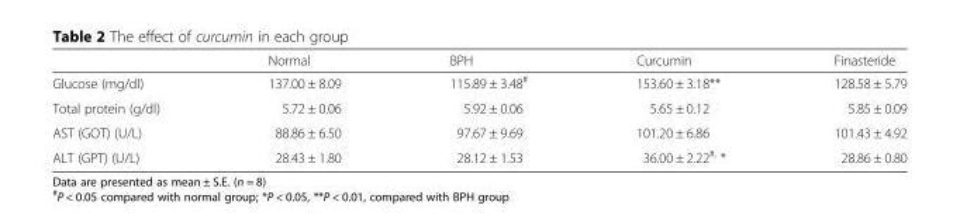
<table><thead><tr><td></td><td>Normal</td><td>BPH</td><td>Curcumin</td><td>Finasteride</td></tr></thead><tbody><tr><td>Glucose (mg/dl)</td><td>137.00 ± 8.09</td><td>115.89 ± 3.48<sup>#</sup></td><td>153.60 ± 3.18**</td><td>128.58 ± 5.79</td></tr><tr><td>Total protein (g/dl)</td><td>5.72 ± 0.06</td><td>5.92 ± 0.06</td><td>5.65 ± 0.12</td><td>5.85 ± 0.09</td></tr><tr><td>AST (GOT) (U/L)</td><td>88.86 ± 6.50</td><td>97.67 ± 9.69</td><td>101.20 ± 6.86</td><td>101.43 ± 4.92</td></tr><tr><td>ALT (GPT) (U/L)</td><td>28.43 ± 1.80</td><td>28.12 ± 1.53</td><td>36.00 ± 2.22<sup>#,</sup> *</td><td>28.86 ± 0.80</td></tr></tbody></table>